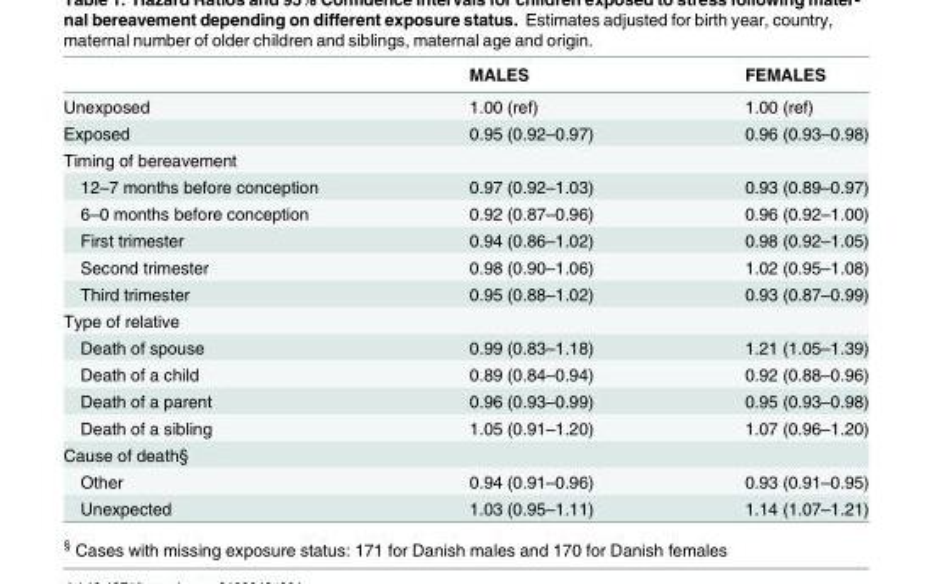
<table><thead><tr><td></td><td>MALES</td><td>FEMALES</td></tr></thead><tbody><tr><td>Unexposed</td><td>1.00 (ref)</td><td>1.00 (ref)</td></tr><tr><td>Exposed</td><td>0.95 (0.92–0.97)</td><td>0.96 (0.93–0.98)</td></tr><tr><td colspan="3">Timing of bereavement</td></tr><tr><td>12–7 months before conception</td><td>0.97 (0.92–1.03)</td><td>0.93 (0.89–0.97)</td></tr><tr><td>6–0 months before conception</td><td>0.92 (0.87–0.96)</td><td>0.96 (0.92–1.00)</td></tr><tr><td>First trimester</td><td>0.94 (0.86–1.02)</td><td>0.98 (0.92–1.05)</td></tr><tr><td>Second trimester</td><td>0.98 (0.90–1.06)</td><td>1.02 (0.95–1.08)</td></tr><tr><td>Third trimester</td><td>0.95 (0.88–1.02)</td><td>0.93 (0.87–0.99)</td></tr><tr><td colspan="3">Type of relative</td></tr><tr><td>Death of spouse</td><td>0.99 (0.83–1.18)</td><td>1.21 (1.05–1.39)</td></tr><tr><td>Death of a child</td><td>0.89 (0.84–0.94)</td><td>0.92 (0.88–0.96)</td></tr><tr><td>Death of a parent</td><td>0.96 (0.93–0.99)</td><td>0.95 (0.93–0.98)</td></tr><tr><td>Death of a sibling</td><td>1.05 (0.91–1.20)</td><td>1.07 (0.96–1.20)</td></tr><tr><td colspan="3">Cause of death§</td></tr><tr><td>Other</td><td>0.94 (0.91–0.96)</td><td>0.93 (0.91–0.95)</td></tr><tr><td>Unexpected</td><td>1.03 (0.95–1.11)</td><td>1.14 (1.07–1.21)</td></tr></tbody></table>